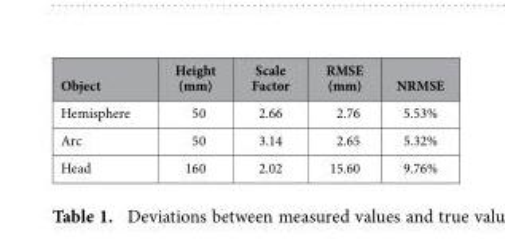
<table><thead><tr><td>Object</td><td>Height (mm)</td><td>Scale Factor</td><td>RMSE (mm)</td><td>NRMSE</td></tr></thead><tbody><tr><td>Hemisphere</td><td>50</td><td>2.66</td><td>2.76</td><td>5.53%</td></tr><tr><td>Arc</td><td>50</td><td>3.14</td><td>2.65</td><td>5.32%</td></tr><tr><td>Head</td><td>160</td><td>2.02</td><td>15.60</td><td>9.76%</td></tr></tbody></table>